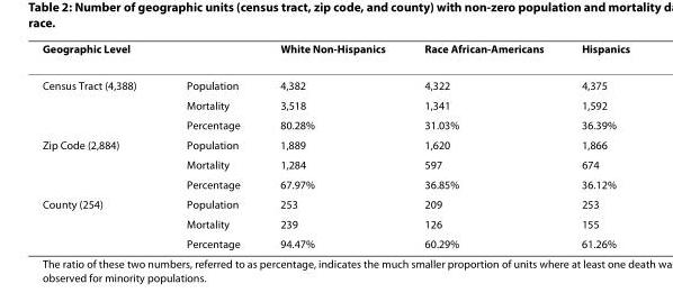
<table><thead><tr><td>Geographic Level</td><td></td><td>White Non-Hispanics</td><td>Race African-Americans</td><td>Hispanics</td></tr></thead><tbody><tr><td rowspan="3">Census Tract (4,388)</td><td>Population</td><td>4,382</td><td>4,322</td><td>4,375</td></tr><tr><td>Mortality</td><td>3,518</td><td>1,341</td><td>1,592</td></tr><tr><td>Percentage</td><td>80.28%</td><td>31.03%</td><td>36.39%</td></tr><tr><td rowspan="3">Zip Code (2,884)</td><td>Population</td><td>1,889</td><td>1,620</td><td>1,866</td></tr><tr><td>Mortality</td><td>1,284</td><td>597</td><td>674</td></tr><tr><td>Percentage</td><td>67.97%</td><td>36.85%</td><td>36.12%</td></tr><tr><td rowspan="3">County (254)</td><td>Population</td><td>253</td><td>209</td><td>253</td></tr><tr><td>Mortality</td><td>239</td><td>126</td><td>155</td></tr><tr><td>Percentage</td><td>94.47%</td><td>60.29%</td><td>61.26%</td></tr></tbody></table>